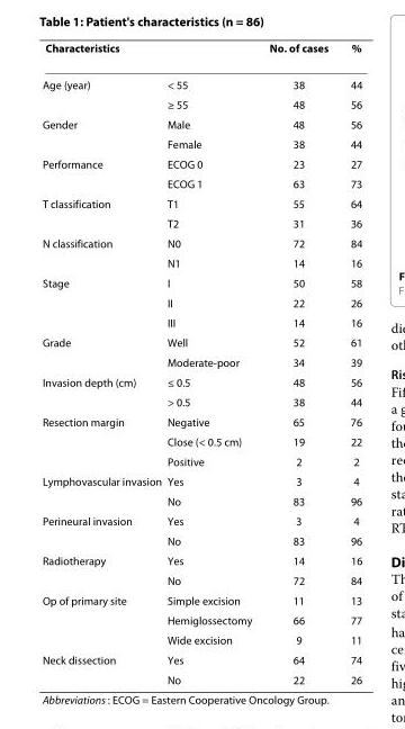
<table><thead><tr><td colspan="2">Characteristics</td><td rowspan="2">No. of cases 38</td><td rowspan="2">% 44</td></tr><tr><td>Age (year)</td><td>&lt; 55</td></tr></thead><tbody><tr><td></td><td>≥ 55</td><td>48</td><td>56</td></tr><tr><td rowspan="2">Gender</td><td>Male</td><td>48</td><td>56</td></tr><tr><td>Female</td><td>38</td><td>44</td></tr><tr><td rowspan="2">Performance</td><td>ECOG 0</td><td>23</td><td>27</td></tr><tr><td>ECOG 1</td><td>63</td><td>73</td></tr><tr><td rowspan="2">T classification</td><td>T1</td><td>55</td><td>64</td></tr><tr><td>T2</td><td>31</td><td>36</td></tr><tr><td rowspan="2">N classification</td><td>N0</td><td>72</td><td>84</td></tr><tr><td>N1</td><td>14</td><td>16</td></tr><tr><td rowspan="3">Stage</td><td>I</td><td>50</td><td>58</td></tr><tr><td>II</td><td>22</td><td>26</td></tr><tr><td>III</td><td>14</td><td>16</td></tr><tr><td rowspan="2">Grade</td><td>Well</td><td>52</td><td>61</td></tr><tr><td>Moderate-poor</td><td>34</td><td>39</td></tr><tr><td rowspan="2">Invasion depth (cm)</td><td>≤ 0.5</td><td>48</td><td>56</td></tr><tr><td>&gt; 0.5</td><td>38</td><td>44</td></tr><tr><td rowspan="3">Resection margin</td><td>Negative</td><td>65</td><td>76</td></tr><tr><td>Close (&lt; 0.5 cm)</td><td>19</td><td>22</td></tr><tr><td>Positive</td><td>2</td><td>2</td></tr><tr><td rowspan="2">Lymphovascular invasion</td><td>Yes</td><td>3</td><td>4</td></tr><tr><td>No</td><td>83</td><td>96</td></tr><tr><td rowspan="2">Perineural invasion</td><td>Yes</td><td>3</td><td>4</td></tr><tr><td>No</td><td>83</td><td>96</td></tr><tr><td rowspan="2">Radiotherapy</td><td>Yes</td><td>14</td><td>16</td></tr><tr><td>No</td><td>72</td><td>84</td></tr><tr><td rowspan="3">Op of primary site</td><td>Simple excision</td><td>11</td><td>13</td></tr><tr><td>Hemiglossectomy</td><td>66</td><td>77</td></tr><tr><td>Wide excision</td><td>9</td><td>11</td></tr><tr><td rowspan="2">Neck dissection</td><td>Yes</td><td>64</td><td>74</td></tr><tr><td>No</td><td>22</td><td>26</td></tr></tbody></table>